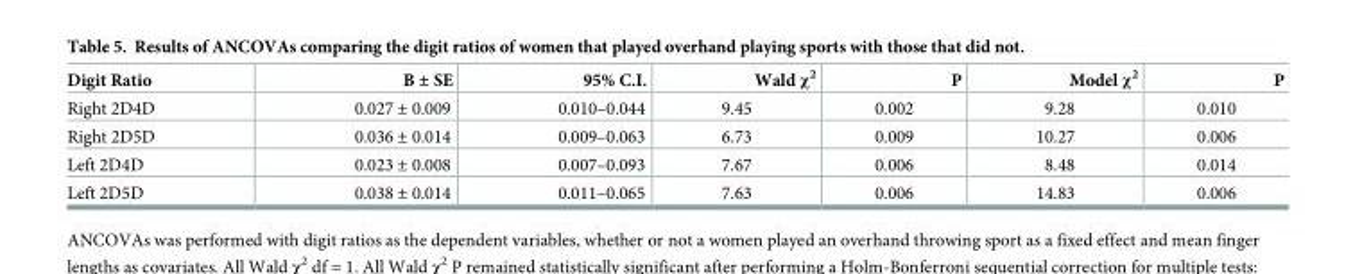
<table><thead><tr><td>Digit Ratio</td><td>B ± SE</td><td>95% C.I.</td><td>Wald χ<sup>2</sup></td><td>P</td><td>Model χ<sup>2</sup></td><td>P</td></tr></thead><tbody><tr><td>Right 2D4D</td><td>0.027 ± 0.009</td><td>0.010–0.044</td><td>9.45</td><td>0.002</td><td>9.28</td><td>0.010</td></tr><tr><td>Right 2D5D</td><td>0.036 ± 0.014</td><td>0.009–0.063</td><td>6.73</td><td>0.009</td><td>10.27</td><td>0.006</td></tr><tr><td>Left 2D4D</td><td>0.023 ± 0.008</td><td>0.007–0.093</td><td>7.67</td><td>0.006</td><td>8.48</td><td>0.014</td></tr><tr><td>Left 2D5D</td><td>0.038 ± 0.014</td><td>0.011–0.065</td><td>7.63</td><td>0.006</td><td>14.83</td><td>0.006</td></tr></tbody></table>